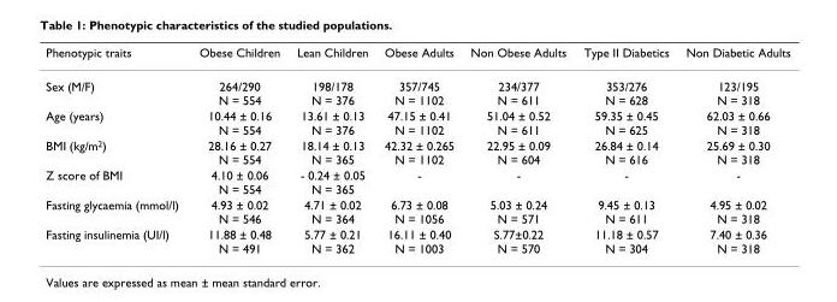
<table><thead><tr><td>Phenotypic traits</td><td>Obese Children</td><td>Lean Children</td><td>Obese Adults</td><td>Non Obese Adults</td><td>Type II Diabetics</td><td>Non Diabetic Adults</td></tr></thead><tbody><tr><td>Sex (M/F)</td><td>264/290 N = 554</td><td>198/178 N = 376</td><td>357/745 N = 1102</td><td>234/377 N = 611</td><td>353/276 N = 628</td><td>123/195 N = 318</td></tr><tr><td>Age (years)</td><td>10.44 ± 0.16 N = 554</td><td>13.61 ± 0.13 N = 376</td><td>47.15 ± 0.41 N = 1102</td><td>51.04 ± 0.52 N = 611</td><td>59.35 ± 0.45 N = 625</td><td>62.03 ± 0.66 N = 318</td></tr><tr><td>BMI (kg/m2)</td><td>28.16 ± 0.27 N = 554</td><td>18.14 ± 0.13 N = 365</td><td>42.32 ± 0.265 N = 1102</td><td>22.95 ± 0.09 N = 604</td><td>26.84 ± 0.14 N = 616</td><td>25.69 ± 0.30 N = 318</td></tr><tr><td>Z score of BMI</td><td>4.10 ± 0.06 N = 554</td><td>- 0.24 ± 0.05 N = 365</td><td>-</td><td>-</td><td>-</td><td>-</td></tr><tr><td>Fasting glycaemia (mmol/l)</td><td>4.93 ± 0.02 N = 546</td><td>4.71 ± 0.02 N = 364</td><td>6.73 ± 0.08 N = 1056</td><td>5.03 ± 0.24 N = 571</td><td>9.45 ± 0.13 N = 611</td><td>4.95 ± 0.02 N = 318</td></tr><tr><td>Fasting insulinemia (UI/l)</td><td>11.88 ± 0.48 N = 491</td><td>5.77 ± 0.21 N = 362</td><td>16.11 ± 0.40 N = 1003</td><td>S.77±0.22 N = 570</td><td>11.18 ± 0.57 N = 304</td><td>7.40 ± 0.36 N = 318</td></tr></tbody></table>